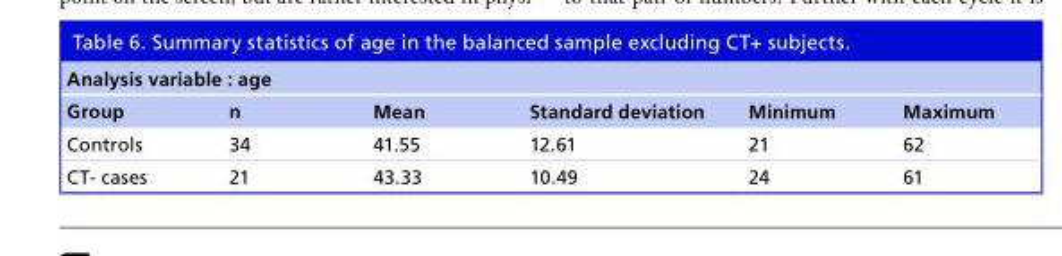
<table><thead><tr><td colspan="6">Analysis variable : age</td></tr><tr><td>Group</td><td>n</td><td>Mean</td><td>Standard deviation</td><td>Minimum</td><td>Maximum</td></tr></thead><tbody><tr><td>Controls</td><td>34</td><td>41.55</td><td>12.61</td><td>21</td><td>62</td></tr><tr><td>CT- cases</td><td>21</td><td>43.33</td><td>10.49</td><td>24</td><td>61</td></tr></tbody></table>